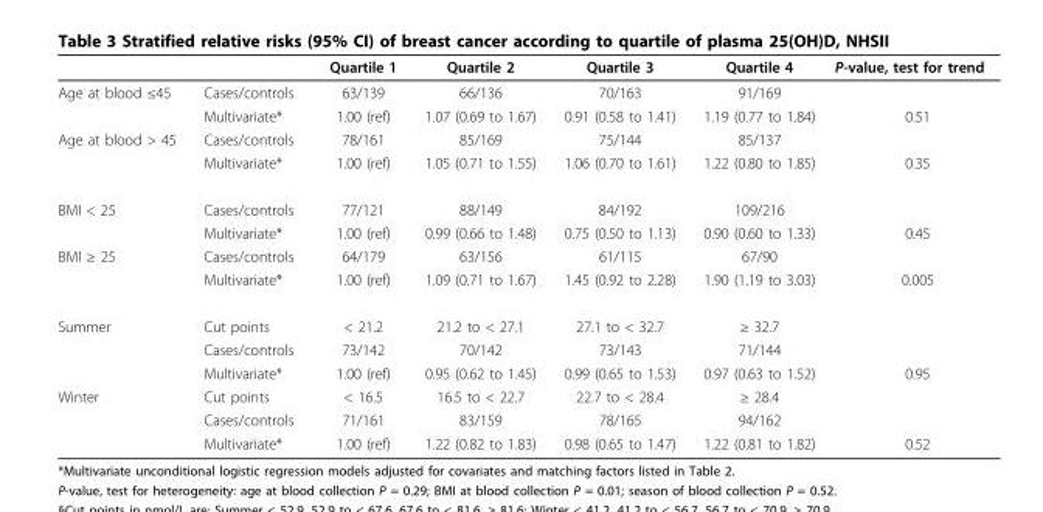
<table><thead><tr><td></td><td></td><td>Quartile 1</td><td>Quartile 2</td><td>Quartile 3</td><td>Quartile 4</td><td>P-value, test for trend</td></tr></thead><tbody><tr><td rowspan="2">Age at blood ≤45</td><td>Cases/controls</td><td>63/139</td><td>66/136</td><td>70/163</td><td>91/169</td><td></td></tr><tr><td>Multivariate*</td><td>1.00 (ref)</td><td>1.07 (0.69 to 1.67)</td><td>0.91 (0.58 to 1.41)</td><td>1.19 (0.77 to 1.84)</td><td>0.51</td></tr><tr><td rowspan="2">Age at blood &gt; 45</td><td>Cases/controls</td><td>78/161</td><td>85/169</td><td>75/144</td><td>85/137</td><td></td></tr><tr><td>Multivariate*</td><td>1.00 (ref)</td><td>1.05 (0.71 to 1.55)</td><td>1.06 (0.70 to 1.61)</td><td>1.22 (0.80 to 1.85)</td><td>0.35</td></tr><tr><td rowspan="2">BMI &lt; 25</td><td>Cases/controls</td><td>77/121</td><td>88/149</td><td>84/192</td><td>109/216</td><td></td></tr><tr><td>Multivariate*</td><td>1.00 (ref)</td><td>0.99 (0.66 to 1.48)</td><td>0.75 (0.50 to 1.13)</td><td>0.90 (0.60 to 1.33)</td><td>0.45</td></tr><tr><td rowspan="2">BMI ≥ 25</td><td>Cases/controls</td><td>64/179</td><td>63/156</td><td>61/115</td><td>67/90</td><td></td></tr><tr><td>Multivariate*</td><td>1.00 (ref)</td><td>1.09 (0.71 to 1.67)</td><td>1.45 (0.92 to 2.28)</td><td>1.90 (1.19 to 3.03)</td><td>0.005</td></tr><tr><td rowspan="3">Summer</td><td>Cut points</td><td>&lt; 21.2</td><td>21.2 to &lt; 27.1</td><td>27.1 to &lt; 32.7</td><td>≥ 32.7</td><td></td></tr><tr><td>Cases/controls</td><td>73/142</td><td>70/142</td><td>73/143</td><td>71/144</td><td></td></tr><tr><td>Multivariate*</td><td>1.00 (ref)</td><td>0.95 (0.62 to 1.45)</td><td>0.99 (0.65 to 1.53)</td><td>0.97 (0.63 to 1.52)</td><td>0.95</td></tr><tr><td rowspan="3">Winter</td><td>Cut points</td><td>&lt; 16.5</td><td>16.5 to &lt; 22.7</td><td>22.7 to &lt; 28.4</td><td>≥ 28.4</td><td></td></tr><tr><td>Cases/controls</td><td>71/161</td><td>83/159</td><td>78/165</td><td>94/162</td><td></td></tr><tr><td>Multivariate*</td><td>1.00 (ref)</td><td>1.22 (0.82 to 1.83)</td><td>0.98 (0.65 to 1.47)</td><td>1.22 (0.81 to 1.82)</td><td>0.52</td></tr></tbody></table>